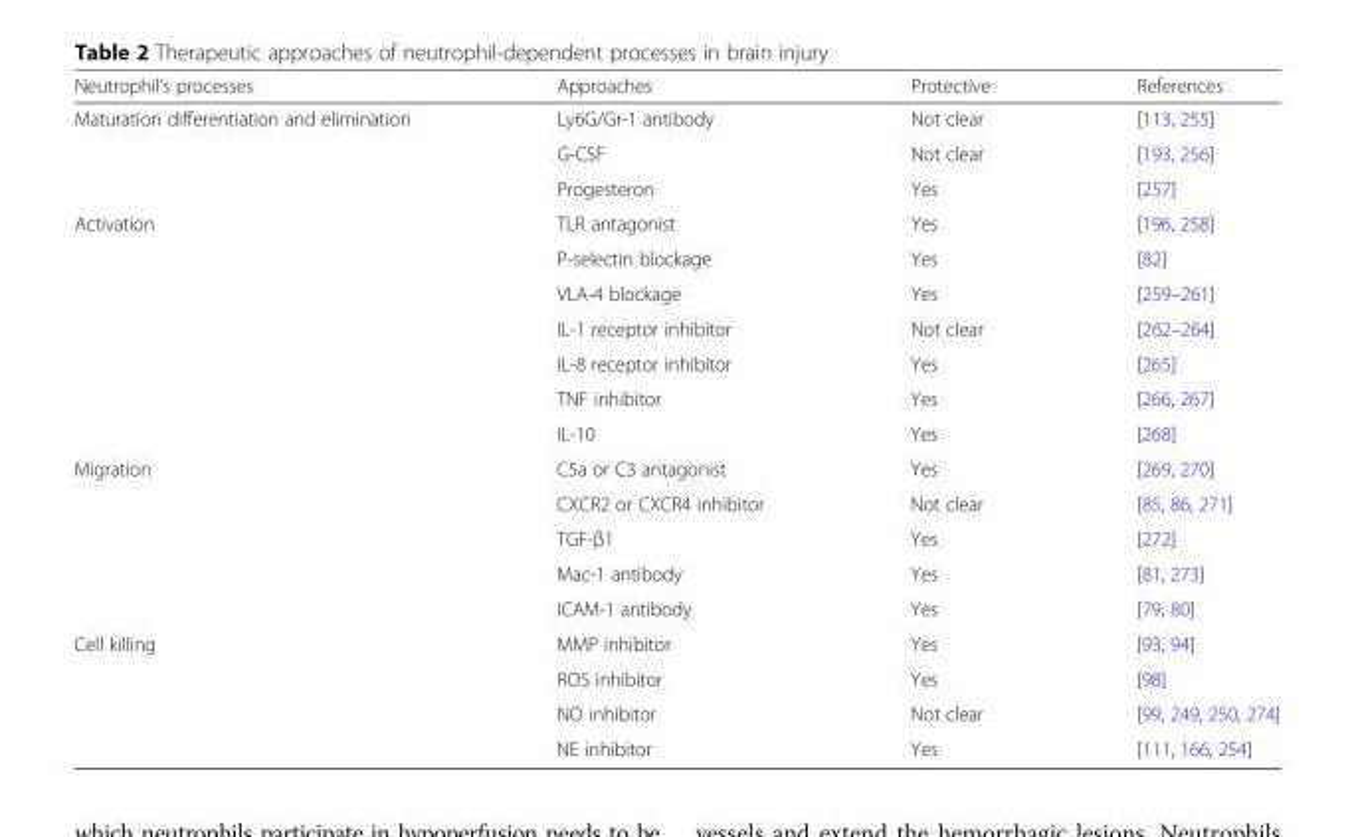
<table><thead><tr><td>Neutrophil’s processes</td><td>Approaches</td><td>Protective</td><td>References</td></tr></thead><tbody><tr><td rowspan="3">Maturation differentiation and elimination</td><td>Ly6G/Gr-1 antibody</td><td>Not clear</td><td>[113, 255]</td></tr><tr><td>G-CSF</td><td>Not clear</td><td>[193, 256]</td></tr><tr><td>Progesteron</td><td>Yes</td><td>[257]</td></tr><tr><td rowspan="7">Activation</td><td>TLR antagonist</td><td>Yes</td><td>[196, 258]</td></tr><tr><td>P-selectin blockage</td><td>Yes</td><td>[82]</td></tr><tr><td>VLA-4 blockage</td><td>Yes</td><td>[259–261]</td></tr><tr><td>IL-1 receptor inhibitor</td><td>Not clear</td><td>[262–264]</td></tr><tr><td>IL-8 receptor inhibitor</td><td>Yes</td><td>[265]</td></tr><tr><td>TNF inhibitor</td><td>Yes</td><td>[266, 267]</td></tr><tr><td>IL-10</td><td>Yes</td><td>[268]</td></tr><tr><td rowspan="5">Migration</td><td>C5a or C3 antagonist</td><td>Yes</td><td>[269, 270]</td></tr><tr><td>CXCR2 or CXCR4 inhibitor</td><td>Not clear</td><td>[85, 86, 271]</td></tr><tr><td>TGF-β1</td><td>Yes</td><td>[272]</td></tr><tr><td>Mac-1 antibody</td><td>Yes</td><td>[81, 273]</td></tr><tr><td>ICAM-1 antibody</td><td>Yes</td><td>[79, 80]</td></tr><tr><td rowspan="4">Cell killing</td><td>MMP inhibitor</td><td>Yes</td><td>[93, 94]</td></tr><tr><td>ROS inhibitor</td><td>Yes</td><td>[98]</td></tr><tr><td>NO inhibitor</td><td>Not clear</td><td>[99, 249, 250, 274]</td></tr><tr><td>NE inhibitor</td><td>Yes</td><td>[111, 166, 254]</td></tr></tbody></table>